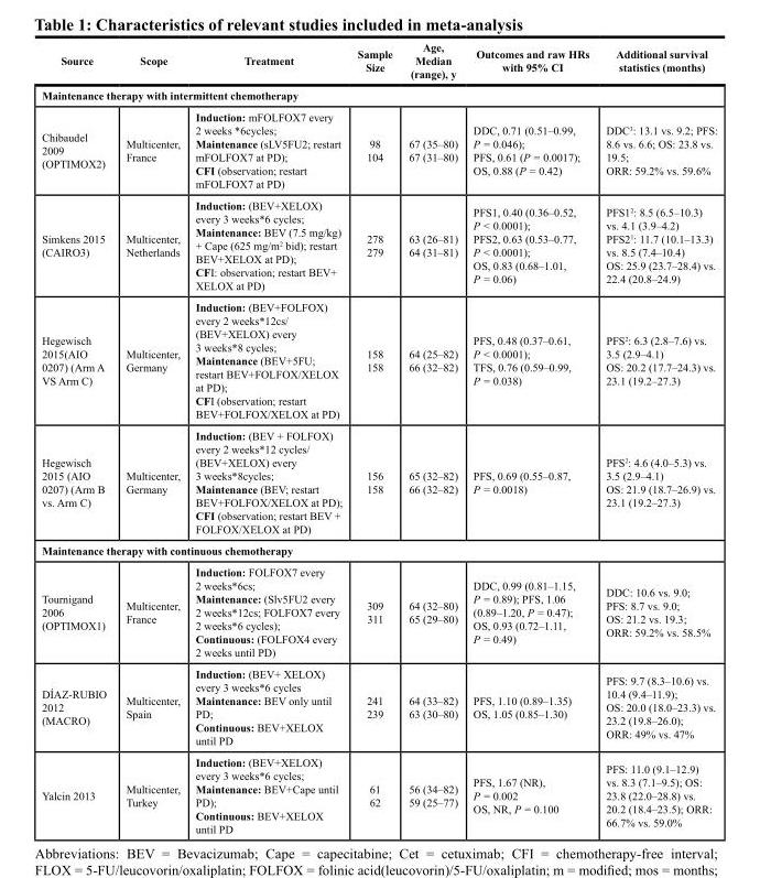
<table><thead><tr><td>Source</td><td>Scope</td><td>Treatment</td><td>Sample Size</td><td>Age, Median (range), y</td><td>Outcomes and raw HRs with 95% CI</td><td>Additional survival statistics (months)</td></tr></thead><tbody><tr><td colspan="7">Maintenance therapy with intermittent chemotherapy</td></tr><tr><td>Chibaudel 2009 (OPTIMOX2)</td><td>Multicenter, France</td><td>Induction: mFOLFOX7 every 2 weeks *6cycles; Maintenance (sLV5FU2; restart mFOLFOX7 at PD); CFI (observation; restart mFOLFOX7 at PD)</td><td>98 104</td><td>67 (35–80) 67 (31–80)</td><td>DDC, 0.71 (0.51–0.99, P = 0.046); PFS, 0.61 (P = 0.0017); OS, 0.88 (P = 0.42)</td><td>DDC<sup>3</sup>: 13.1 vs. 9.2; PFS: 8.6 vs. 6.6; OS: 23.8 vs. 19.5; ORR: 59.2% vs. 59.6%</td></tr><tr><td>Simkens 2015 (CAIRO3)</td><td>Multicenter, Netherlands</td><td>Induction: (BEV+XELOX) every 3 weeks*6 cycles; Maintenance: BEV (7.5 mg/kg) + Cape (625 mg/m<sup>2</sup> bid); restart BEV+XELOX at PD); CFI: observation; restart BEV+ XELOX at PD)</td><td>278 279</td><td>63 (26–81) 64 (31–81)</td><td>PFS1, 0.40 (0.36–0.52, P &lt; 0.0001); PFS2, 0.63 (0.53–0.77, P &lt; 0.0001); OS, 0.83 (0.68–1.01, P = 0.06)</td><td>PFS1<sup>2</sup>: 8.5 (6.5–10.3) vs. 4.1 (3.9–4.2) PFS2<sup>1</sup>: 11.7 (10.1–13.3) vs. 8.5 (7.4–10.4) OS: 25.9 (23.7–28.4) vs. 22.4 (20.8–24.9)</td></tr><tr><td>Hegewisch 2015(AIO 0207) (Arm A VS Arm C)</td><td>Multicenter, Germany</td><td>Induction: (BEV+FOLFOX) every 2 weeks*12cs/ (BEV+XELOX) every 3 weeks*8 cycles; Maintenance (BEV+5FU; restart BEV+FOLFOX/XELOX at PD); CFI (observation; restart BEV+FOLFOX/XELOX at PD)</td><td>158 158</td><td>64 (25–82) 66 (32–82)</td><td>PFS, 0.48 (0.37–0.61, P &lt; 0.0001); TFS, 0.76 (0.59–0.99, P = 0.038)</td><td>PFS<sup>2</sup>: 6.3 (2.8–7.6) vs. 3.5 (2.9–4.1) OS: 20.2 (17.7–24.3) vs. 23.1 (19.2–27.3)</td></tr><tr><td>Hegewisch 2015 (AIO 0207) (Arm B vs. Arm C)</td><td>Multicenter, Germany</td><td>Induction: (BEV + FOLFOX) every 2 weeks*12 cycles/ (BEV+XELOX) every 3 weeks*8cycles; Maintenance (BEV; restart BEV+FOLFOX/XELOX at PD); CFI (observation; restart BEV + FOLFOX/XELOX at PD)</td><td>156 158</td><td>65 (32–82) 66 (32–82)</td><td>PFS, 0.69 (0.55–0.87, P = 0.0018)</td><td>PFS<sup>2</sup>: 4.6 (4.0–5.3) vs. 3.5 (2.9–4.1) OS: 21.9 (18.7–26.9) vs. 23.1 (19.2–27.3)</td></tr><tr><td colspan="7">Maintenance therapy with continuous chemotherapy</td></tr><tr><td>Tournigand 2006 (OPTIMOX1)</td><td>Multicenter, France</td><td>Induction: FOLFOX7 every 2 weeks*6cs; Maintenance: (Slv5FU2 every 2 weeks*12cs; FOLFOX7 every 2 weeks*6 cycles); Continuous: (FOLFOX4 every 2 weeks until PD)</td><td>309 311</td><td>64 (32–80) 65 (29–80)</td><td>DDC, 0.99 (0.81–1.15, P = 0.89); PFS, 1.06 (0.89–1.20, P = 0.47); OS, 0.93 (0.72–1.11, P = 0.49)</td><td>DDC: 10.6 vs. 9.0; PFS: 8.7 vs. 9.0; OS: 21.2 vs. 19.3; ORR: 59.2% vs. 58.5%</td></tr><tr><td>DÍAZ-RUBIO 2012 (MACRO)</td><td>Multicenter, Spain</td><td>Induction: (BEV+ XELOX) every 3 weeks*6 cycles Maintenance: BEV only until PD; Continuous: BEV+XELOX until PD</td><td>241 239</td><td>64 (33–82) 63 (30–80)</td><td>PFS, 1.10 (0.89–1.35) OS, 1.05 (0.85–1.30)</td><td>PFS: 9.7 (8.3–10.6) vs. 10.4 (9.4–11.9); OS: 20.0 (18.0–23.3) vs. 23.2 (19.8–26.0); ORR: 49% vs. 47%</td></tr><tr><td>Yalcin 2013</td><td>Multicenter, Turkey</td><td>Induction: (BEV+XELOX) every 3 weeks*6 cycles; Maintenance: BEV+Cape until PD); Continuous: BEV+XELOX until PD</td><td>61 62</td><td>56 (34–82) 59 (25–77)</td><td>PFS, 1.67 (NR), P = 0.002 OS, NR, P = 0.100</td><td>PFS: 11.0 (9.1–12.9) vs. 8.3 (7.1–9.5); OS: 23.8 (22.0–28.8) vs. 20.2 (18.4–23.5); ORR: 66.7% vs. 59.0%</td></tr></tbody></table>